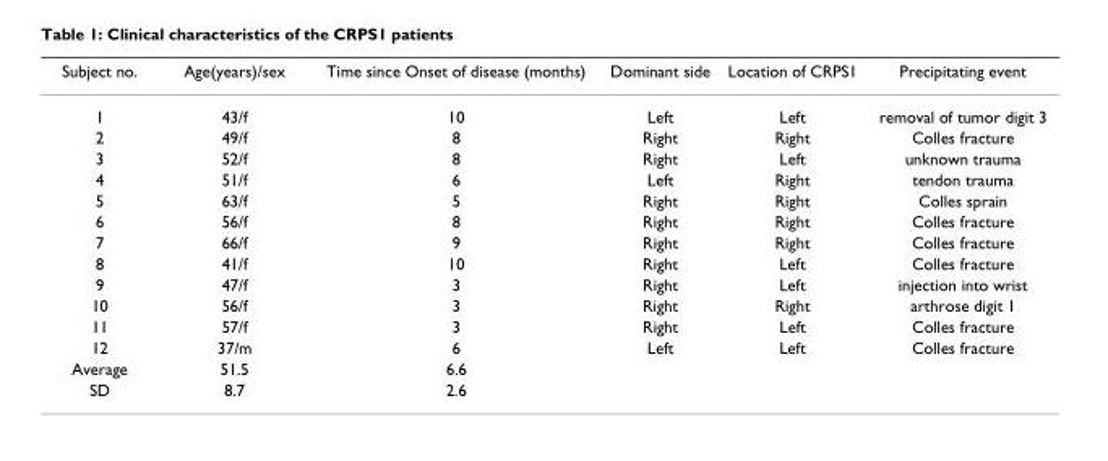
<table><thead><tr><td>Subject no.</td><td>Age(years)/sex</td><td>Time since Onset of disease (months)</td><td>Dominant side</td><td>Location of CRPS1</td><td>Precipitating event</td></tr></thead><tbody><tr><td>1</td><td>43/f</td><td>10</td><td>Left</td><td>Left</td><td>removal of tumor digit 3</td></tr><tr><td>2</td><td>49/f</td><td>8</td><td>Right</td><td>Right</td><td>Colles fracture</td></tr><tr><td>3</td><td>52/f</td><td>8</td><td>Right</td><td>Left</td><td>unknown trauma</td></tr><tr><td>4</td><td>51/f</td><td>6</td><td>Left</td><td>Right</td><td>tendon trauma</td></tr><tr><td>5</td><td>63/f</td><td>5</td><td>Right</td><td>Right</td><td>Colles sprain</td></tr><tr><td>6</td><td>56/f</td><td>8</td><td>Right</td><td>Right</td><td>Colles fracture</td></tr><tr><td>7</td><td>66/f</td><td>9</td><td>Right</td><td>Right</td><td>Colles fracture</td></tr><tr><td>8</td><td>41/f</td><td>10</td><td>Right</td><td>Left</td><td>Colles fracture</td></tr><tr><td>9</td><td>47/f</td><td>3</td><td>Right</td><td>Left</td><td>injection into wrist</td></tr><tr><td>10</td><td>56/f</td><td>3</td><td>Right</td><td>Right</td><td>arthrose digit 1</td></tr><tr><td>11</td><td>57/f</td><td>3</td><td>Right</td><td>Left</td><td>Colles fracture</td></tr><tr><td>12</td><td>37/m</td><td>6</td><td>Left</td><td>Left</td><td>Colles fracture</td></tr><tr><td>Average</td><td>51.5</td><td>6.6</td><td></td><td></td><td></td></tr><tr><td>SD</td><td>8.7</td><td>2.6</td><td></td><td></td><td></td></tr></tbody></table>